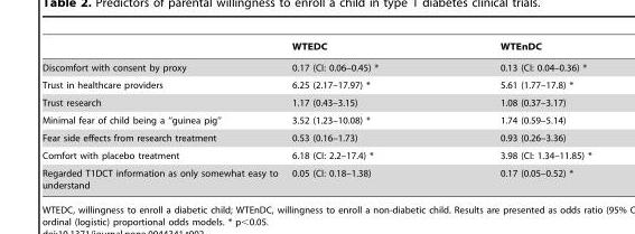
<table><thead><tr><td></td><td>WTEDC</td><td>WTEnDC</td></tr></thead><tbody><tr><td>Discomfort with consent by proxy</td><td>0.17 (CI: 0.06–0.45) *</td><td>0.13 (CI: 0.04–0.36) *</td></tr><tr><td>Trust in healthcare providers</td><td>6.25 (2.17–17.97) *</td><td>5.61 (1.77–17.8) *</td></tr><tr><td>Trust research</td><td>1.17 (0.43–3.15)</td><td>1.08 (0.37–3.17)</td></tr><tr><td>Minimal fear of child being a ‘‘guinea pig’’</td><td>3.52 (1.23–10.08) *</td><td>1.74 (0.59–5.14)</td></tr><tr><td>Fear side effects from research treatment</td><td>0.53 (0.16–1.73)</td><td>0.93 (0.26–3.36)</td></tr><tr><td>Comfort with placebo treatment</td><td>6.18 (CI: 2.2–17.4) *</td><td>3.98 (CI: 1.34–11.85) *</td></tr><tr><td>Regarded T1DCT information as only somewhat easy to understand</td><td>0.05 (CI: 0.18–1.38)</td><td>0.17 (0.05–0.52) *</td></tr></tbody></table>